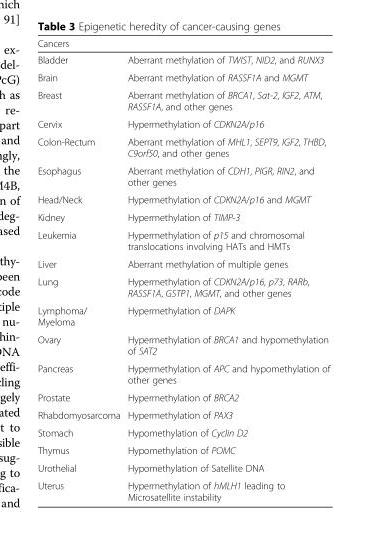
<table><thead><tr><td>Cancers</td><td></td></tr></thead><tbody><tr><td>Bladder</td><td>Aberrant methylation of TWIST, NID2, and RUNX3</td></tr><tr><td>Brain</td><td>Aberrant methylation of RASSF1A and MGMT</td></tr><tr><td>Breast</td><td>Aberrant methylation of BRCA1, Sat-2, IGF2, ATM, RASSF1A, and other genes</td></tr><tr><td>Cervix</td><td>Hypermethylation of CDKN2A/p16</td></tr><tr><td>Colon-Rectum</td><td>Aberrant methylation of MHL1, SEPT9, IGF2, THBD, C9orf50, and other genes</td></tr><tr><td>Esophagus</td><td>Aberrant methylation of CDH1, PIGR, RIN2, and other genes</td></tr><tr><td>Head/Neck</td><td>Hypermethylation of CDKN2A/p16 and MGMT</td></tr><tr><td>Kidney</td><td>Hypermethylation of TIMP-3</td></tr><tr><td>Leukemia</td><td>Hypermethylation of p15 and chromosomal translocations involving HATs and HMTs</td></tr><tr><td>Liver</td><td>Aberrant methylation of multiple genes</td></tr><tr><td>Lung</td><td>Hypermethylation of CDKN2A/p16, p73, RARb, RASSF1A, GSTP1, MGMT, and other genes</td></tr><tr><td>Lymphoma/ Myeloma</td><td>Hypermethylation of DAPK</td></tr><tr><td>Ovary</td><td>Hypermethylation of BRCA1 and hypomethylation of SAT2</td></tr><tr><td>Pancreas</td><td>Hypermethylation of APC and hypomethylation of other genes</td></tr><tr><td>Prostate</td><td>Hypermethylation of BRCA2</td></tr><tr><td>Rhabdomyosarcoma</td><td>Hypermethylation of PAX3</td></tr><tr><td>Stomach</td><td>Hypomethylation of Cyclin D2</td></tr><tr><td>Thymus</td><td>Hypomethylation of POMC</td></tr><tr><td>Urothelial</td><td>Hypomethylation of Satellite DNA</td></tr><tr><td>Uterus</td><td>Hypermethylation of hMLH1 leading to Microsatellite instability</td></tr></tbody></table>